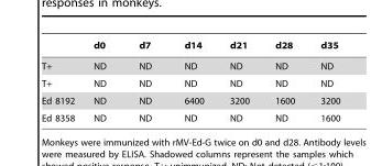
<table><thead><tr><td></td><td>d0</td><td>d7</td><td>d14</td><td>d21</td><td>d28</td><td>d35</td></tr></thead><tbody><tr><td>T+</td><td>ND</td><td>ND</td><td>ND</td><td>ND</td><td>ND</td><td>ND</td></tr><tr><td>T+</td><td>ND</td><td>ND</td><td>ND</td><td>ND</td><td>ND</td><td>ND</td></tr><tr><td>Ed 8192</td><td>ND</td><td>ND</td><td>6400</td><td>3200</td><td>1600</td><td>3200</td></tr><tr><td>Ed 8358</td><td>ND</td><td>ND</td><td>ND</td><td>ND</td><td>ND</td><td>1600</td></tr></tbody></table>